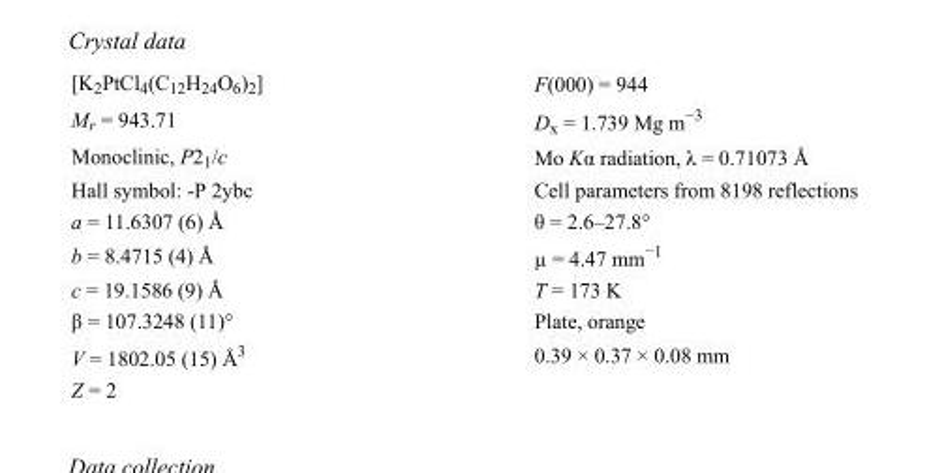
<table><tbody><tr><td>[K<sub>2</sub>PtCl<sub>4</sub>(C<sub>12</sub>H<sub>24</sub>O<sub>6</sub>)<sub>2</sub>]</td><td>F(000) = 944</td></tr><tr><td>M<sub>r</sub> = 943.71</td><td>D<sub>x</sub> = 1.739 Mg m<sup>−3</sup></td></tr><tr><td>Monoclinic, P2<sub>1</sub>/c</td><td>Mo Kα radiation, λ = 0.71073 Å</td></tr><tr><td>Hall symbol: -P 2ybc</td><td>Cell parameters from 8198 reflections</td></tr><tr><td>a = 11.6307 (6) Å</td><td>θ = 2.6–27.8°</td></tr><tr><td>b = 8.4715 (4) Å</td><td>µ = 4.47 mm<sup>−1</sup></td></tr><tr><td>c = 19.1586 (9) Å</td><td>T = 173 K</td></tr><tr><td>β = 107.3248 (11)°</td><td>Plate, orange</td></tr><tr><td>V = 1802.05 (15) Å<sup>3</sup></td><td>0.39 × 0.37 × 0.08 mm</td></tr><tr><td>Z = 2</td><td></td></tr></tbody></table>